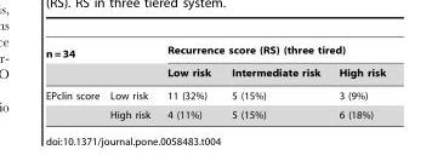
<table><thead><tr><td colspan="2">n = 34</td><td colspan="3">Recurrence score (RS) (three tired)</td></tr><tr><td></td><td></td><td>Low risk</td><td>Intermediate risk</td><td>High risk</td></tr></thead><tbody><tr><td rowspan="2">EPclin score</td><td>Low risk</td><td>11 (32%)</td><td>5 (15%)</td><td>3 (9%)</td></tr><tr><td>High risk</td><td>4 (11%)</td><td>5 (15%)</td><td>6 (18%)</td></tr></tbody></table>